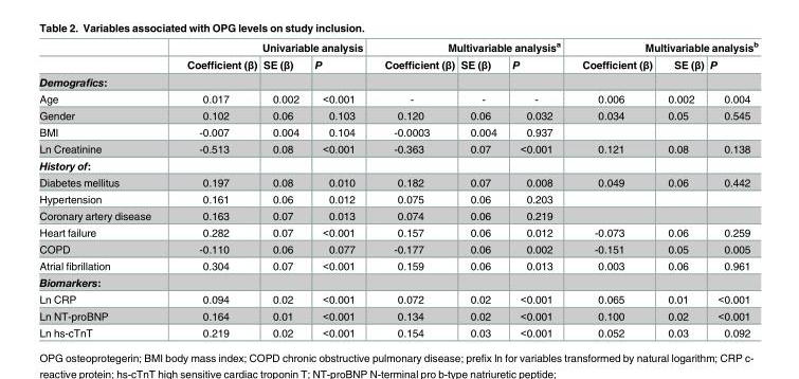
<table><thead><tr><td rowspan="2"></td><td colspan="3">Univariable analysis</td><td colspan="3">Multivariable analysis<sup>a</sup></td><td colspan="3">Multivariable analysis<sup>b</sup></td></tr><tr><td>Coefficient (β)</td><td>SE (β)</td><td>P</td><td>Coefficient (β)</td><td>SE (β)</td><td>P</td><td>Coefficient (β)</td><td>SE (β)</td><td>P</td></tr></thead><tbody><tr><td colspan="10">Demografics:</td></tr><tr><td>Age</td><td>0.017</td><td>0.002</td><td>&lt;0.001</td><td>-</td><td>-</td><td>-</td><td>0.006</td><td>0.002</td><td>0.004</td></tr><tr><td>Gender</td><td>0.102</td><td>0.06</td><td>0.103</td><td>0.120</td><td>0.06</td><td>0.032</td><td>0.034</td><td>0.05</td><td>0.545</td></tr><tr><td>BMI</td><td>-0.007</td><td>0.004</td><td>0.104</td><td>-0.0003</td><td>0.004</td><td>0.937</td><td></td><td></td><td></td></tr><tr><td>Ln Creatinine</td><td>-0.513</td><td>0.08</td><td>&lt;0.001</td><td>-0.363</td><td>0.07</td><td>&lt;0.001</td><td>0.121</td><td>0.08</td><td>0.138</td></tr><tr><td colspan="10">History of:</td></tr><tr><td>Diabetes mellitus</td><td>0.197</td><td>0.08</td><td>0.010</td><td>0.182</td><td>0.07</td><td>0.008</td><td>0.049</td><td>0.06</td><td>0.442</td></tr><tr><td>Hypertension</td><td>0.161</td><td>0.06</td><td>0.012</td><td>0.075</td><td>0.06</td><td>0.203</td><td></td><td></td><td></td></tr><tr><td>Coronary artery disease</td><td>0.163</td><td>0.07</td><td>0.013</td><td>0.074</td><td>0.06</td><td>0.219</td><td></td><td></td><td></td></tr><tr><td>Heart failure</td><td>0.282</td><td>0.07</td><td>&lt;0.001</td><td>0.157</td><td>0.06</td><td>0.012</td><td>-0.073</td><td>0.06</td><td>0.259</td></tr><tr><td>COPD</td><td>-0.110</td><td>0.06</td><td>0.077</td><td>-0.177</td><td>0.06</td><td>0.002</td><td>-0.151</td><td>0.05</td><td>0.005</td></tr><tr><td>Atrial fibrillation</td><td>0.304</td><td>0.07</td><td>&lt;0.001</td><td>0.159</td><td>0.06</td><td>0.013</td><td>0.003</td><td>0.06</td><td>0.961</td></tr><tr><td colspan="10">Biomarkers:</td></tr><tr><td>Ln CRP</td><td>0.094</td><td>0.02</td><td>&lt;0.001</td><td>0.072</td><td>0.02</td><td>&lt;0.001</td><td>0.065</td><td>0.01</td><td>&lt;0.001</td></tr><tr><td>Ln NT-proBNP</td><td>0.164</td><td>0.01</td><td>&lt;0.001</td><td>0.134</td><td>0.02</td><td>&lt;0.001</td><td>0.100</td><td>0.02</td><td>&lt;0.001</td></tr><tr><td>Ln hs-cTnT</td><td>0.219</td><td>0.02</td><td>&lt;0.001</td><td>0.154</td><td>0.03</td><td>&lt;0.001</td><td>0.052</td><td>0.03</td><td>0.092</td></tr></tbody></table>